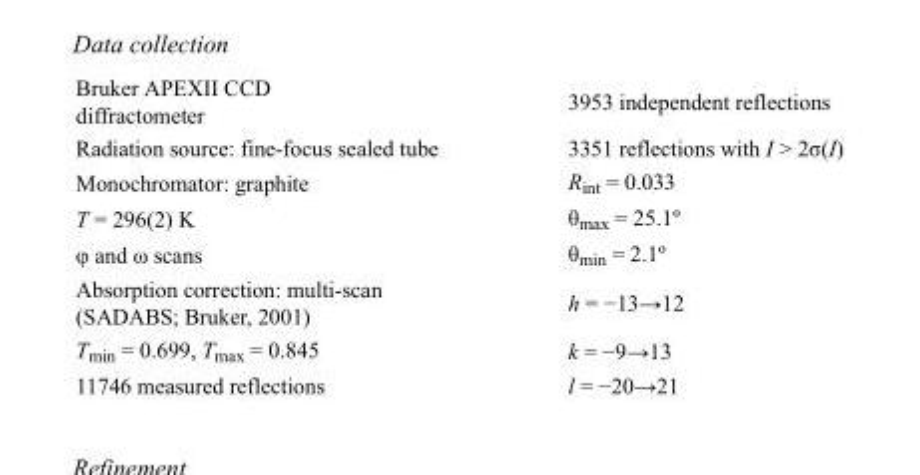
<table><tbody><tr><td>Bruker APEXII CCD diffractometer</td><td>3953 independent reflections</td></tr><tr><td>Radiation source: fine-focus sealed tube</td><td>3351 reflections with I &gt; 2σ(I)</td></tr><tr><td>Monochromator: graphite</td><td>R<sub>int</sub> = 0.033</td></tr><tr><td>T = 296(2) K</td><td>θ<sub>max</sub> = 25.1º</td></tr><tr><td>φ and ω scans</td><td>θ<sub>min</sub> = 2.1º</td></tr><tr><td>Absorption correction: multi-scan (SADABS; Bruker, 2001)</td><td>h = −13→12</td></tr><tr><td>T<sub>min</sub> = 0.699, T<sub>max</sub> = 0.845</td><td>k = −9→13</td></tr><tr><td>11746 measured reflections</td><td>l = −20→21</td></tr></tbody></table>